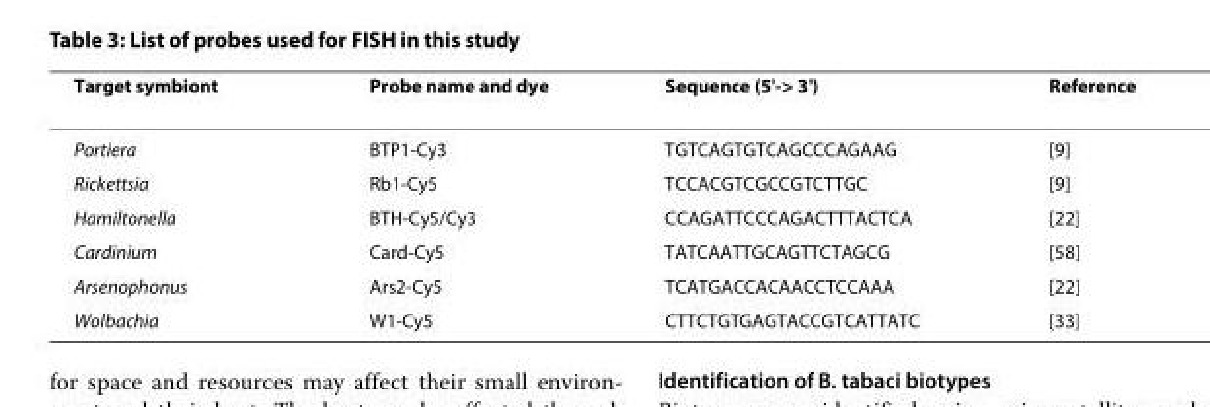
<table><thead><tr><td>Target symbiont</td><td>Probe name and dye</td><td>Sequence (5&#x27;-&gt; 3&#x27;)</td><td>Reference</td></tr></thead><tbody><tr><td>Portiera</td><td>BTP1-Cy3</td><td>TGTCAGTGTCAGCCCAGAAG</td><td>[9]</td></tr><tr><td>Rickettsia</td><td>Rb1-Cy5</td><td>TCCACGTCGCCGTCTTGC</td><td>[9]</td></tr><tr><td>Hamiltonella</td><td>BTH-Cy5/Cy3</td><td>CCAGATTCCCAGACTTTACTCA</td><td>[22]</td></tr><tr><td>Cardinium</td><td>Card-Cy5</td><td>TATCAATTGCAGTTCTAGCG</td><td>[58]</td></tr><tr><td>Arsenophonus</td><td>Ars2-Cy5</td><td>TCATGACCACAACCTCCAAA</td><td>[22]</td></tr><tr><td>Wolbachia</td><td>W1-Cy5</td><td>CTTCTGTGAGTACCGTCATTATC</td><td>[33]</td></tr></tbody></table>